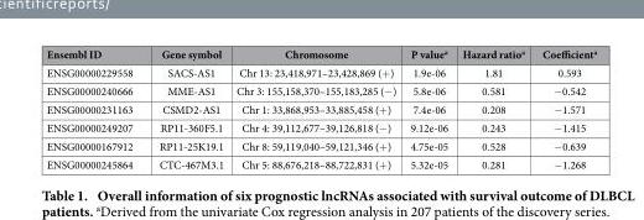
<table><thead><tr><td>Ensembl ID</td><td>Gene symbol</td><td>Chromosome</td><td>P value<sup>a</sup></td><td>Hazard ratio<sup>a</sup></td><td>Coefficient<sup>a</sup></td></tr></thead><tbody><tr><td>ENSG00000229558</td><td>SACS-AS1</td><td>Chr 13: 23,418,971–23,428,869 (+ )</td><td>1.9e-06</td><td>1.81</td><td>0.593</td></tr><tr><td>ENSG00000240666</td><td>MME-AS1</td><td>Chr 3: 155,158,370–155,183,285 (− )</td><td>5.8e-06</td><td>0.581</td><td>− 0.542</td></tr><tr><td>ENSG00000231163</td><td>CSMD2-AS1</td><td>Chr 1: 33,868,953–33,885,458 (+ )</td><td>7.4e-06</td><td>0.208</td><td>− 1.571</td></tr><tr><td>ENSG00000249207</td><td>RP11-360F5.1</td><td>Chr 4: 39,112,677–39,126,818 (− )</td><td>9.12e-06</td><td>0.243</td><td>− 1.415</td></tr><tr><td>ENSG00000167912</td><td>RP11-25K19.1</td><td>Chr 8: 59,119,040–59,121,346 (+ )</td><td>4.75e-05</td><td>0.528</td><td>− 0.639</td></tr><tr><td>ENSG00000245864</td><td>CTC-467M3.1</td><td>Chr 5: 88,676,218–88,722,831 (+ )</td><td>5.32e-05</td><td>0.281</td><td>− 1.268</td></tr></tbody></table>